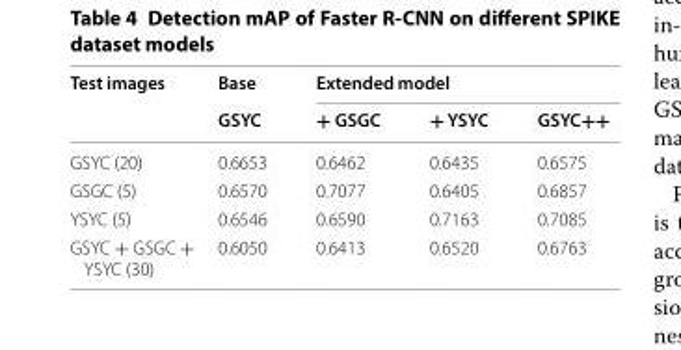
<table><thead><tr><td rowspan="2">Test images</td><td rowspan="2">Base GSYC</td><td colspan="3">Extended model</td></tr><tr><td>+ GSGC</td><td>+ YSYC</td><td>GSYC++</td></tr></thead><tbody><tr><td>GSYC (20)</td><td>0.6653</td><td>0.6462</td><td>0.6435</td><td>0.6575</td></tr><tr><td>GSGC (5)</td><td>0.6570</td><td>0.7077</td><td>0.6405</td><td>0.6857</td></tr><tr><td>YSYC (5)</td><td>0.6546</td><td>0.6590</td><td>0.7163</td><td>0.7085</td></tr><tr><td>GSYC + GSGC + YSYC (30)</td><td>0.6050</td><td>0.6413</td><td>0.6520</td><td>0.6763</td></tr></tbody></table>